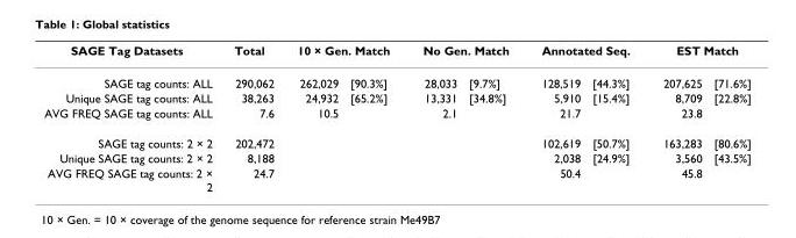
<table><thead><tr><td rowspan="2">SAGE Tag Datasets SAGE tag counts: ALL</td><td rowspan="2">Total 290,062</td><td colspan="2">10 × Gen. Match</td><td colspan="2">No Gen. Match</td><td colspan="2">Annotated Seq.</td><td colspan="2">EST Match</td></tr><tr><td>262,029</td><td>[90.3%]</td><td>28,033</td><td>[9.7%]</td><td>128,519</td><td>[44.3%]</td><td>207,625</td><td>[71.6%]</td></tr></thead><tbody><tr><td>Unique SAGE tag counts: ALL</td><td>38,263</td><td>24,932</td><td>[65.2%]</td><td>13,331</td><td>[34.8%]</td><td>5,910</td><td>[15.4%]</td><td>8,709</td><td>[22.8%]</td></tr><tr><td>AVG FREQ SAGE tag counts: ALL</td><td>7.6</td><td>10.5</td><td></td><td>2.1</td><td></td><td>21.7</td><td></td><td>23.8</td><td></td></tr><tr><td>SAGE tag counts: 2 × 2</td><td>202,472</td><td></td><td></td><td></td><td></td><td>102,619</td><td>[50.7%]</td><td>163,283</td><td>[80.6%]</td></tr><tr><td>Unique SAGE tag counts: 2 × 2</td><td>8,188</td><td></td><td></td><td></td><td></td><td>2,038</td><td>[24.9%]</td><td>3,560</td><td>[43.5%]</td></tr><tr><td>AVG FREQ SAGE tag counts: 2 × 2</td><td>24.7</td><td></td><td></td><td></td><td></td><td>50.4</td><td></td><td>45.8</td><td></td></tr></tbody></table>